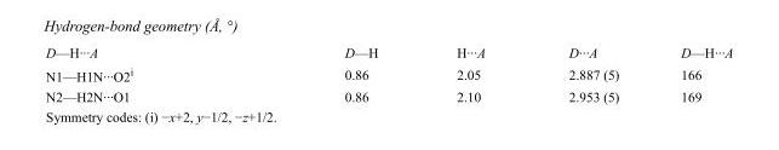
<table><tbody><tr><td>D—H···A</td><td>D—H</td><td>H···A</td><td>D···A</td><td>D—H···A</td></tr><tr><td>N1—H1N···O2<sup>i</sup></td><td>0.86</td><td>2.05</td><td>2.887 (5)</td><td>166</td></tr><tr><td>N2—H2N···O1</td><td>0.86</td><td>2.10</td><td>2.953 (5)</td><td>169</td></tr></tbody></table>